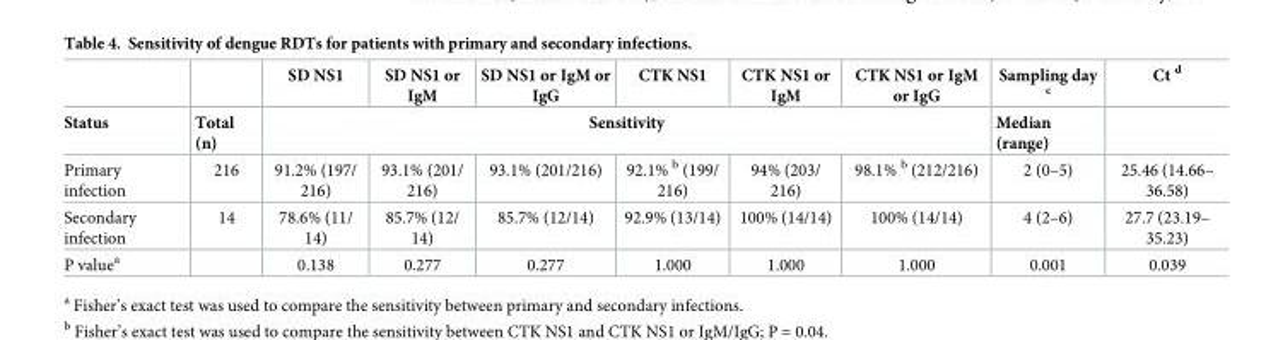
<table><thead><tr><td rowspan="2">Status</td><td rowspan="2">Total (n)</td><td>SD NS1</td><td>SD NS1 or IgM</td><td>SD NS1 or IgM or IgG</td><td>CTK NS1</td><td>CTK NS1 or IgM</td><td>CTK NS1 or IgM or IgG</td><td rowspan="2">Sampling day <sup>c</sup> Median (range)</td><td rowspan="2">Ct <sup>d</sup></td></tr><tr><td colspan="6">Sensitivity</td></tr></thead><tbody><tr><td>Primary infection</td><td>216</td><td>91.2% (197/ 216)</td><td>93.1% (201/ 216)</td><td>93.1% (201/216)</td><td>92.1% <sup>b</sup> (199/ 216)</td><td>94% (203/ 216)</td><td>98.1% <sup>b</sup> (212/216)</td><td>2 (0–5)</td><td>25.46 (14.66– 36.58)</td></tr><tr><td>Secondary infection</td><td>14</td><td>78.6% (11/ 14)</td><td>85.7% (12/ 14)</td><td>85.7% (12/14)</td><td>92.9% (13/14)</td><td>100% (14/14)</td><td>100% (14/14)</td><td>4 (2–6)</td><td>27.7 (23.19– 35.23)</td></tr><tr><td>P value<sup>a</sup></td><td></td><td>0.138</td><td>0.277</td><td>0.277</td><td>1.000</td><td>1.000</td><td>1.000</td><td>0.001</td><td>0.039</td></tr></tbody></table>